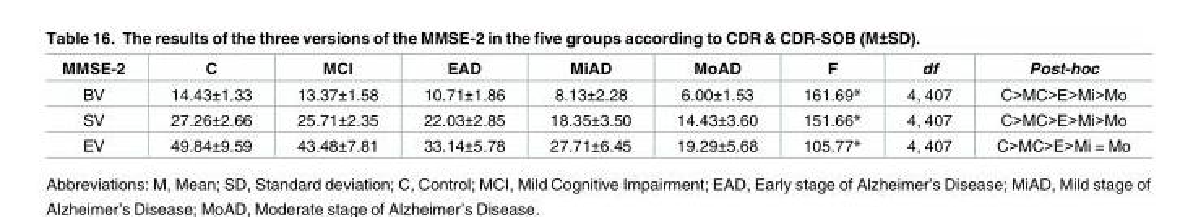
<table><thead><tr><td>MMSE-2</td><td>C</td><td>MCI</td><td>EAD</td><td>MiAD</td><td>MoAD</td><td>F</td><td>df</td><td>Post-hoc</td></tr></thead><tbody><tr><td>BV</td><td>14.43±1.33</td><td>13.37±1.58</td><td>10.71±1.86</td><td>8.13±2.28</td><td>6.00±1.53</td><td>161.69*</td><td>4, 407</td><td>C&gt;MC&gt;E&gt;Mi&gt;Mo</td></tr><tr><td>SV</td><td>27.26±2.66</td><td>25.71±2.35</td><td>22.03±2.85</td><td>18.35±3.50</td><td>14.43±3.60</td><td>151.66*</td><td>4, 407</td><td>C&gt;MC&gt;E&gt;Mi&gt;Mo</td></tr><tr><td>EV</td><td>49.84±9.59</td><td>43.48±7.81</td><td>33.14±5.78</td><td>27.71±6.45</td><td>19.29±5.68</td><td>105.77*</td><td>4, 407</td><td>C&gt;MC&gt;E&gt;Mi = Mo</td></tr></tbody></table>